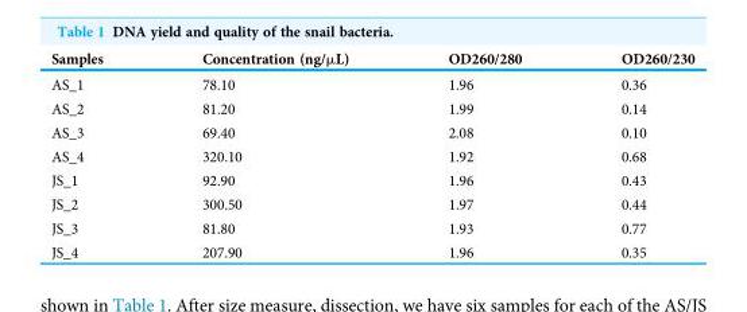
<table><thead><tr><td>Samples</td><td>Concentration (ng/μL)</td><td>OD260/280</td><td>OD260/230</td></tr></thead><tbody><tr><td>AS_1</td><td>78.10</td><td>1.96</td><td>0.36</td></tr><tr><td>AS_2</td><td>81.20</td><td>1.99</td><td>0.14</td></tr><tr><td>AS_3</td><td>69.40</td><td>2.08</td><td>0.10</td></tr><tr><td>AS_4</td><td>320.10</td><td>1.92</td><td>0.68</td></tr><tr><td>JS_1</td><td>92.90</td><td>1.96</td><td>0.43</td></tr><tr><td>JS_2</td><td>300.50</td><td>1.97</td><td>0.44</td></tr><tr><td>JS_3</td><td>81.80</td><td>1.93</td><td>0.77</td></tr><tr><td>JS_4</td><td>207.90</td><td>1.96</td><td>0.35</td></tr></tbody></table>